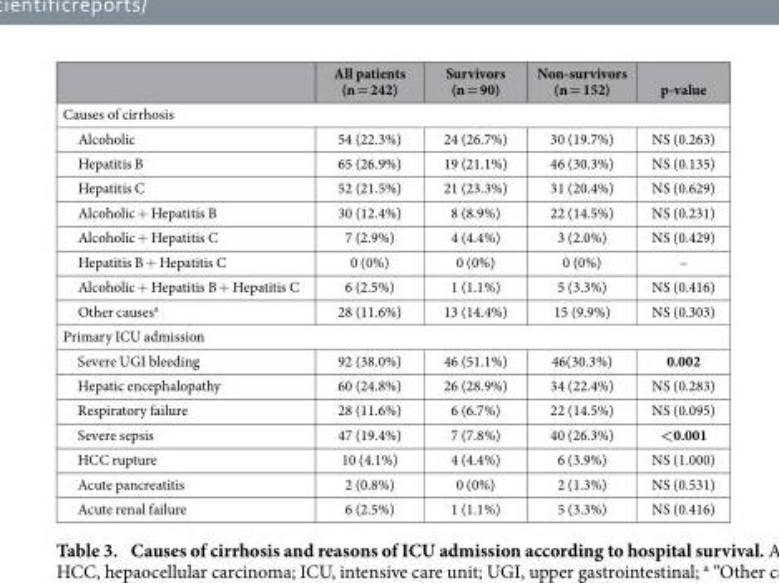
<table><thead><tr><td></td><td>All patients (n = 242)</td><td>Survivors (n = 90)</td><td>Non-survivors (n = 152)</td><td>p-value</td></tr></thead><tbody><tr><td colspan="5">Causes of cirrhosis</td></tr><tr><td>Alcoholic</td><td>54 (22.3%)</td><td>24 (26.7%)</td><td>30 (19.7%)</td><td>NS (0.263)</td></tr><tr><td>Hepatitis B</td><td>65 (26.9%)</td><td>19 (21.1%)</td><td>46 (30.3%)</td><td>NS (0.135)</td></tr><tr><td>Hepatitis C</td><td>52 (21.5%)</td><td>21 (23.3%)</td><td>31 (20.4%)</td><td>NS (0.629)</td></tr><tr><td>Alcoholic + Hepatitis B</td><td>30 (12.4%)</td><td>8 (8.9%)</td><td>22 (14.5%)</td><td>NS (0.231)</td></tr><tr><td>Alcoholic + Hepatitis C</td><td>7 (2.9%)</td><td>4 (4.4%)</td><td>3 (2.0%)</td><td>NS (0.429)</td></tr><tr><td>Hepatitis B + Hepatitis C</td><td>0 (0%)</td><td>0 (0%)</td><td>0 (0%)</td><td>–</td></tr><tr><td>Alcoholic + Hepatitis B + Hepatitis C</td><td>6 (2.5%)</td><td>1 (1.1%)</td><td>5 (3.3%)</td><td>NS (0.416)</td></tr><tr><td>Other causes<sup>a</sup></td><td>28 (11.6%)</td><td>13 (14.4%)</td><td>15 (9.9%)</td><td>NS (0.303)</td></tr><tr><td colspan="5">Primary ICU admission</td></tr><tr><td>Severe UGI bleeding</td><td>92 (38.0%)</td><td>46 (51.1%)</td><td>46(30.3%)</td><td>0.002</td></tr><tr><td>Hepatic encephalopathy</td><td>60 (24.8%)</td><td>26 (28.9%)</td><td>34 (22.4%)</td><td>NS (0.283)</td></tr><tr><td>Respiratory failure</td><td>28 (11.6%)</td><td>6 (6.7%)</td><td>22 (14.5%)</td><td>NS (0.095)</td></tr><tr><td>Severe sepsis</td><td>47 (19.4%)</td><td>7 (7.8%)</td><td>40 (26.3%)</td><td>&lt;0.001</td></tr><tr><td>HCC rupture</td><td>10 (4.1%)</td><td>4 (4.4%)</td><td>6 (3.9%)</td><td>NS (1.000)</td></tr><tr><td>Acute pancreatitis</td><td>2 (0.8%)</td><td>0 (0%)</td><td>2 (1.3%)</td><td>NS (0.531)</td></tr><tr><td>Acute renal failure</td><td>6 (2.5%)</td><td>1 (1.1%)</td><td>5 (3.3%)</td><td>NS (0.416)</td></tr></tbody></table>